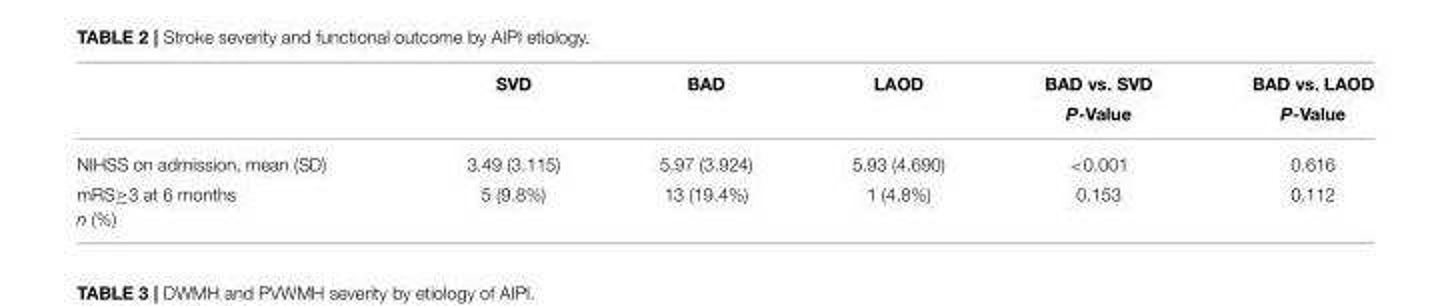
<table><thead><tr><td rowspan="2"></td><td rowspan="2">SVD</td><td rowspan="2">BAD</td><td rowspan="2">LAOD</td><td rowspan="2">BAD vs. SVD P-Value</td><td rowspan="2">BAD vs. LAOD P-Value</td></tr><tr></tr></thead><tbody><tr><td>NIHSS on admission, mean (SD)</td><td>3.49 (3.115)</td><td>5.97 (3.924)</td><td>5.93 (4.690)</td><td>&lt;0.001</td><td>0.616</td></tr><tr><td>mRS≥3 at 6 months n (%)</td><td>5 (9.8%)</td><td>13 (19.4%)</td><td>1 (4.8%)</td><td>0.153</td><td>0.112</td></tr></tbody></table>